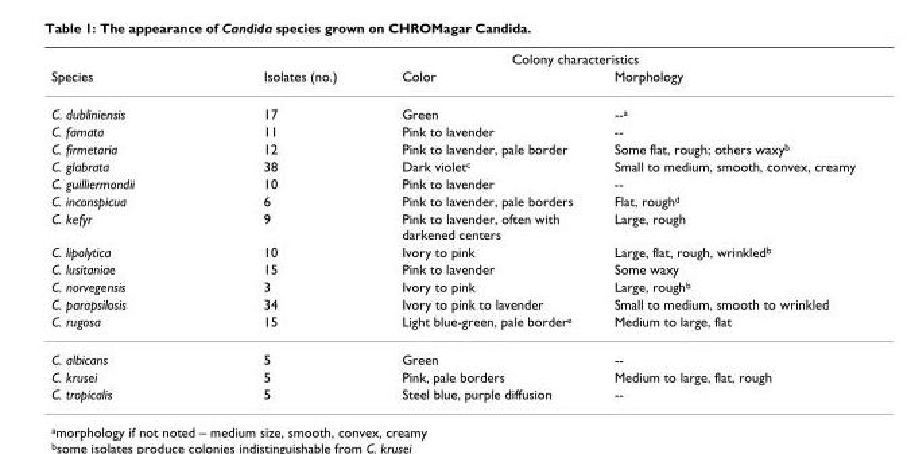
<table><thead><tr><td rowspan="2">Species</td><td colspan="3">Colony characteristics</td></tr><tr><td>Isolates (no.)</td><td>Color</td><td>Morphology</td></tr></thead><tbody><tr><td>C. dubliniensis</td><td>17</td><td>Green</td><td>--<sup>a</sup></td></tr><tr><td>C. famata</td><td>11</td><td>Pink to lavender</td><td>--</td></tr><tr><td>C. firmetaria</td><td>12</td><td>Pink to lavender, pale border</td><td>Some flat, rough; others waxy<sup>b</sup></td></tr><tr><td>C. glabrata</td><td>38</td><td>Dark violet<sup>c</sup></td><td>Small to medium, smooth, convex, creamy</td></tr><tr><td>C. guilliermondii</td><td>10</td><td>Pink to lavender</td><td>--</td></tr><tr><td>C. inconspicua</td><td>6</td><td>Pink to lavender, pale borders</td><td>Flat, rough<sup>d</sup></td></tr><tr><td>C. kefyr</td><td>9</td><td>Pink to lavender, often with darkened centers</td><td>Large, rough</td></tr><tr><td>C. lipolytica</td><td>10</td><td>Ivory to pink</td><td>Large, flat, rough, wrinkled<sup>b</sup></td></tr><tr><td>C. lusitaniae</td><td>15</td><td>Pink to lavender</td><td>Some waxy</td></tr><tr><td>C. norvegensis</td><td>3</td><td>Ivory to pink</td><td>Large, rough<sup>b</sup></td></tr><tr><td>C. parapsilosis</td><td>34</td><td>Ivory to pink to lavender</td><td>Small to medium, smooth to wrinkled</td></tr><tr><td>C. rugosa</td><td>15</td><td>Light blue-green, pale border<sup>e</sup></td><td>Medium to large, flat</td></tr><tr><td>C. albicans</td><td>5</td><td>Green</td><td>--</td></tr><tr><td>C. krusei</td><td>5</td><td>Pink, pale borders</td><td>Medium to large, flat, rough</td></tr><tr><td>C. tropicalis</td><td>5</td><td>Steel blue, purple diffusion</td><td>--</td></tr></tbody></table>